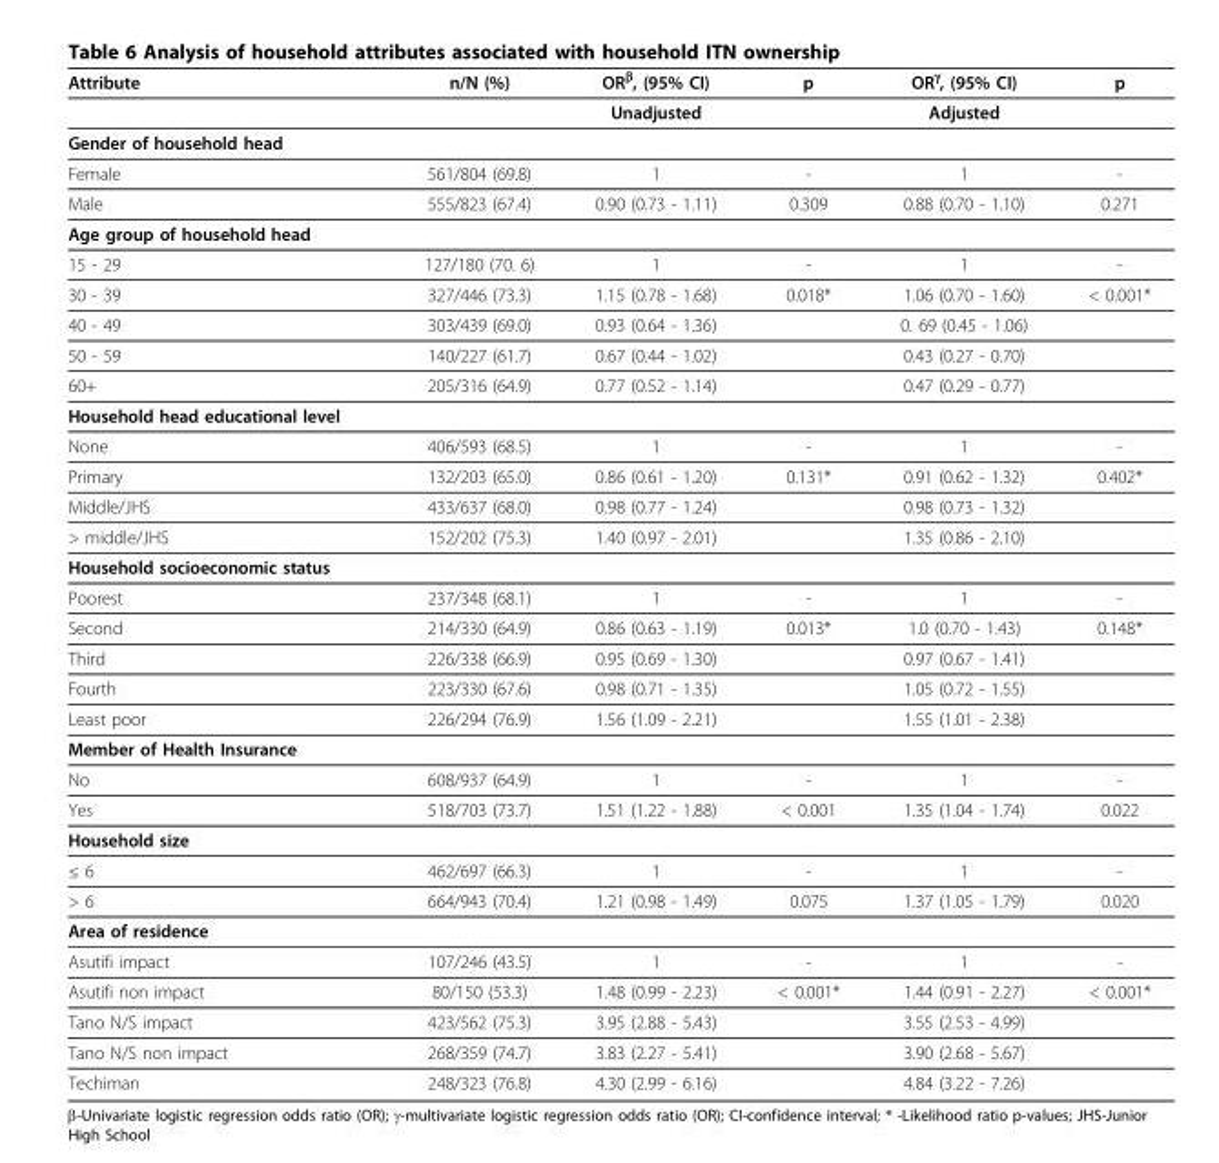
<table><thead><tr><td>Attribute</td><td>n/N (%)</td><td>ORβ, (95% CI)</td><td>p</td><td>ORγ, (95% CI)</td><td>p</td></tr></thead><tbody><tr><td></td><td></td><td>Unadjusted</td><td></td><td>Adjusted</td><td></td></tr><tr><td colspan="6">Gender of household head</td></tr><tr><td>Female</td><td>561/804 (69.8)</td><td>1</td><td>-</td><td>1</td><td>-</td></tr><tr><td>Male</td><td>555/823 (67.4)</td><td>0.90 (0.73 - 1.11)</td><td>0.309</td><td>0.88 (0.70 - 1.10)</td><td>0.271</td></tr><tr><td colspan="6">Age group of household head</td></tr><tr><td>15 - 29</td><td>127/180 (70. 6)</td><td>1</td><td>-</td><td>1</td><td>-</td></tr><tr><td>30 - 39</td><td>327/446 (73.3)</td><td>1.15 (0.78 - 1.68)</td><td>0.018*</td><td>1.06 (0.70 - 1.60)</td><td>&lt; 0.001*</td></tr><tr><td>40 - 49</td><td>303/439 (69.0)</td><td>0.93 (0.64 - 1.36)</td><td></td><td>0. 69 (0.45 - 1.06)</td><td></td></tr><tr><td>50 - 59</td><td>140/227 (61.7)</td><td>0.67 (0.44 - 1.02)</td><td></td><td>0.43 (0.27 - 0.70)</td><td></td></tr><tr><td>60+</td><td>205/316 (64.9)</td><td>0.77 (0.52 - 1.14)</td><td></td><td>0.47 (0.29 - 0.77)</td><td></td></tr><tr><td colspan="6">Household head educational level</td></tr><tr><td>None</td><td>406/593 (68.5)</td><td>1</td><td>-</td><td>1</td><td>-</td></tr><tr><td>Primary</td><td>132/203 (65.0)</td><td>0.86 (0.61 - 1.20)</td><td>0.131*</td><td>0.91 (0.62 - 1.32)</td><td>0.402*</td></tr><tr><td>Middle/JHS</td><td>433/637 (68.0)</td><td>0.98 (0.77 - 1.24)</td><td></td><td>0.98 (0.73 - 1.32)</td><td></td></tr><tr><td>&gt; middle/JHS</td><td>152/202 (75.3)</td><td>1.40 (0.97 - 2.01)</td><td></td><td>1.35 (0.86 - 2.10)</td><td></td></tr><tr><td colspan="6">Household socioeconomic status</td></tr><tr><td>Poorest</td><td>237/348 (68.1)</td><td>1</td><td>-</td><td>1</td><td>-</td></tr><tr><td>Second</td><td>214/330 (64.9)</td><td>0.86 (0.63 - 1.19)</td><td>0.013*</td><td>1.0 (0.70 - 1.43)</td><td>0.148*</td></tr><tr><td>Third</td><td>226/338 (66.9)</td><td>0.95 (0.69 - 1.30)</td><td></td><td>0.97 (0.67 - 1.41)</td><td></td></tr><tr><td>Fourth</td><td>223/330 (67.6)</td><td>0.98 (0.71 - 1.35)</td><td></td><td>1.05 (0.72 - 1.55)</td><td></td></tr><tr><td>Least poor</td><td>226/294 (76.9)</td><td>1.56 (1.09 - 2.21)</td><td></td><td>1.55 (1.01 - 2.38)</td><td></td></tr><tr><td colspan="6">Member of Health Insurance</td></tr><tr><td>No</td><td>608/937 (64.9)</td><td>1</td><td>-</td><td>1</td><td>-</td></tr><tr><td>Yes</td><td>518/703 (73.7)</td><td>1.51 (1.22 - 1.88)</td><td>&lt; 0.001</td><td>1.35 (1.04 - 1.74)</td><td>0.022</td></tr><tr><td colspan="6">Household size</td></tr><tr><td>≤ 6</td><td>462/697 (66.3)</td><td>1</td><td>-</td><td>1</td><td>-</td></tr><tr><td>&gt; 6</td><td>664/943 (70.4)</td><td>1.21 (0.98 - 1.49)</td><td>0.075</td><td>1.37 (1.05 - 1.79)</td><td>0.020</td></tr><tr><td colspan="6">Area of residence</td></tr><tr><td>Asutifi impact</td><td>107/246 (43.5)</td><td>1</td><td>-</td><td>1</td><td>-</td></tr><tr><td>Asutifi non impact</td><td>80/150 (53.3)</td><td>1.48 (0.99 - 2.23)</td><td>&lt; 0.001*</td><td>1.44 (0.91 - 2.27)</td><td>&lt; 0.001*</td></tr><tr><td>Tano N/S impact</td><td>423/562 (75.3)</td><td>3.95 (2.88 - 5.43)</td><td></td><td>3.55 (2.53 - 4.99)</td><td></td></tr><tr><td>Tano N/S non impact</td><td>268/359 (74.7)</td><td>3.83 (2.27 - 5.41)</td><td></td><td>3.90 (2.68 - 5.67)</td><td></td></tr><tr><td>Techiman</td><td>248/323 (76.8)</td><td>4.30 (2.99 - 6.16)</td><td></td><td>4.84 (3.22 - 7.26)</td><td></td></tr></tbody></table>